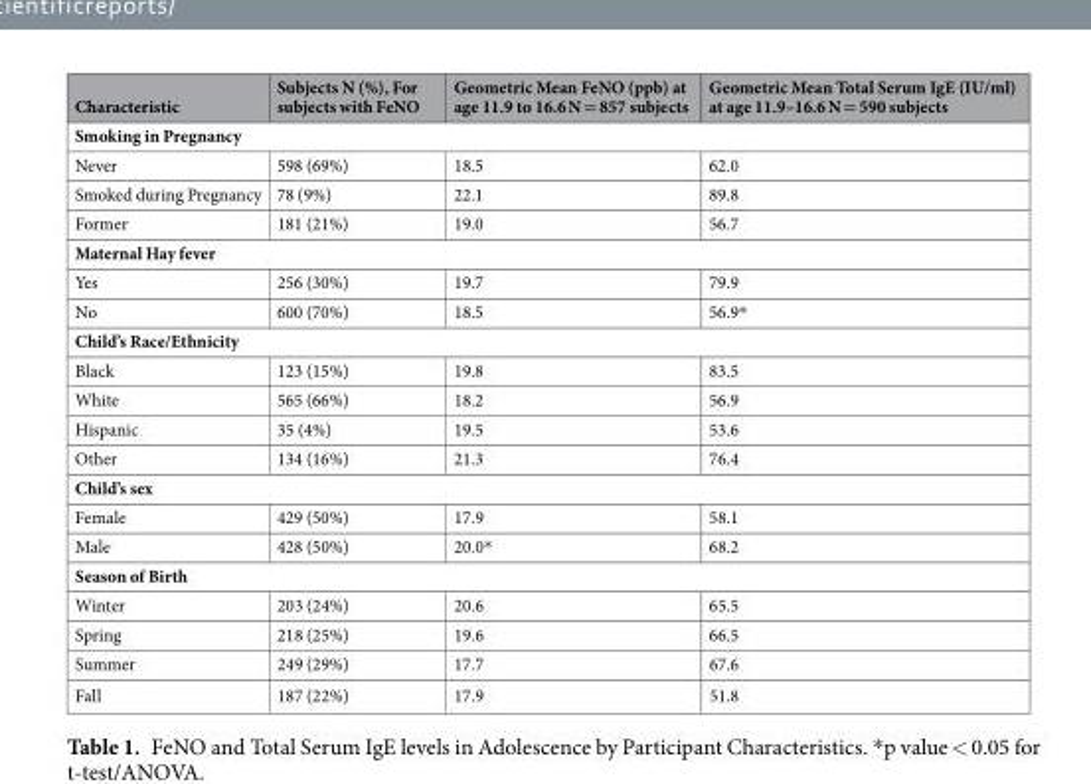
<table><thead><tr><td>Characteristic</td><td>Subjects N (%), For subjects with FeNO</td><td>Geometric Mean FeNO (ppb) at age 11.9 to 16.6 N = 857 subjects</td><td>Geometric Mean Total Serum IgE (IU/ml) at age 11.9–16.6 N = 590 subjects</td></tr></thead><tbody><tr><td colspan="4">Smoking in Pregnancy</td></tr><tr><td>Never</td><td>598 (69%)</td><td>18.5</td><td>62.0</td></tr><tr><td>Smoked during Pregnancy</td><td>78 (9%)</td><td>22.1</td><td>89.8</td></tr><tr><td>Former</td><td>181 (21%)</td><td>19.0</td><td>56.7</td></tr><tr><td colspan="4">Maternal Hay fever</td></tr><tr><td>Yes</td><td>256 (30%)</td><td>19.7</td><td>79.9</td></tr><tr><td>No</td><td>600 (70%)</td><td>18.5</td><td>56.9*</td></tr><tr><td colspan="4">Child’s Race/Ethnicity</td></tr><tr><td>Black</td><td>123 (15%)</td><td>19.8</td><td>83.5</td></tr><tr><td>White</td><td>565 (66%)</td><td>18.2</td><td>56.9</td></tr><tr><td>Hispanic</td><td>35 (4%)</td><td>19.5</td><td>53.6</td></tr><tr><td>Other</td><td>134 (16%)</td><td>21.3</td><td>76.4</td></tr><tr><td colspan="4">Child’s sex</td></tr><tr><td>Female</td><td>429 (50%)</td><td>17.9</td><td>58.1</td></tr><tr><td>Male</td><td>428 (50%)</td><td>20.0*</td><td>68.2</td></tr><tr><td colspan="4">Season of Birth</td></tr><tr><td>Winter</td><td>203 (24%)</td><td>20.6</td><td>65.5</td></tr><tr><td>Spring</td><td>218 (25%)</td><td>19.6</td><td>66.5</td></tr><tr><td>Summer</td><td>249 (29%)</td><td>17.7</td><td>67.6</td></tr><tr><td>Fall</td><td>187 (22%)</td><td>17.9</td><td>51.8</td></tr></tbody></table>